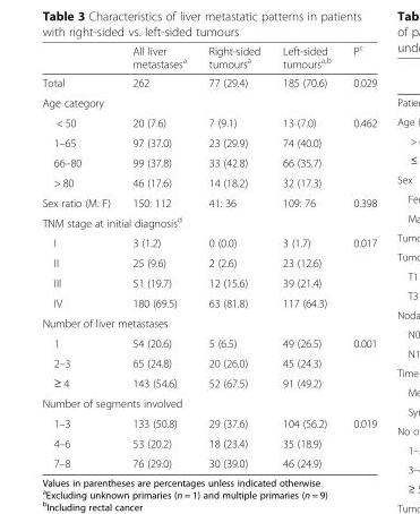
<table><thead><tr><td></td><td>All liver metastases<sup>a</sup></td><td>Right-sided tumours<sup>a</sup></td><td>Left-sided tumours<sup>a,b</sup></td><td>P<sup>c</sup></td></tr></thead><tbody><tr><td>Total</td><td>262</td><td>77 (29.4)</td><td>185 (70.6)</td><td>0.029</td></tr><tr><td colspan="5">Age category</td></tr><tr><td>&lt; 50</td><td>20 (7.6)</td><td>7 (9.1)</td><td>13 (7.0)</td><td rowspan="4">0.462</td></tr><tr><td>1–65</td><td>97 (37.0)</td><td>23 (29.9)</td><td>74 (40.0)</td></tr><tr><td>66–80</td><td>99 (37.8)</td><td>33 (42.8)</td><td>66 (35.7)</td></tr><tr><td>&gt; 80</td><td>46 (17.6)</td><td>14 (18.2)</td><td>32 (17.3)</td></tr><tr><td>Sex ratio (M: F)</td><td>150: 112</td><td>41: 36</td><td>109: 76</td><td>0.398</td></tr><tr><td colspan="5">TNM stage at initial diagnosis<sup>d</sup></td></tr><tr><td>I</td><td>3 (1.2)</td><td>0 (0.0)</td><td>3 (1.7)</td><td rowspan="4">0.017</td></tr><tr><td>II</td><td>25 (9.6)</td><td>2 (2.6)</td><td>23 (12.6)</td></tr><tr><td>III</td><td>51 (19.7)</td><td>12 (15.6)</td><td>39 (21.4)</td></tr><tr><td>IV</td><td>180 (69.5)</td><td>63 (81.8)</td><td>117 (64.3)</td></tr><tr><td colspan="5">Number of liver metastases</td></tr><tr><td>1</td><td>54 (20.6)</td><td>5 (6.5)</td><td>49 (26.5)</td><td rowspan="3">0.001</td></tr><tr><td>2–3</td><td>65 (24.8)</td><td>20 (26.0)</td><td>45 (24.3)</td></tr><tr><td>≥ 4</td><td>143 (54.6)</td><td>52 (67.5)</td><td>91 (49.2)</td></tr><tr><td colspan="5">Number of segments involved</td></tr><tr><td>1–3</td><td>133 (50.8)</td><td>29 (37.6)</td><td>104 (56.2)</td><td rowspan="3">0.019</td></tr><tr><td>4–6</td><td>53 (20.2)</td><td>18 (23.4)</td><td>35 (18.9)</td></tr><tr><td>7–8</td><td>76 (29.0)</td><td>30 (39.0)</td><td>46 (24.9)</td></tr></tbody></table>